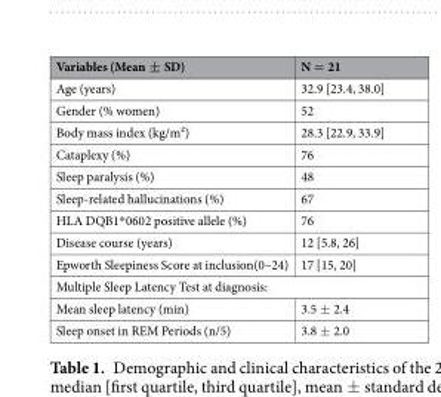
<table><thead><tr><td>Variables (Mean ± SD)</td><td>N = 21</td></tr></thead><tbody><tr><td>Age (years)</td><td>32.9 [23.4, 38.0]</td></tr><tr><td>Gender (% women)</td><td>52</td></tr><tr><td>Body mass index (kg/m²)</td><td>28.3 [22.9, 33.9]</td></tr><tr><td>Cataplexy (%)</td><td>76</td></tr><tr><td>Sleep paralysis (%)</td><td>48</td></tr><tr><td>Sleep-related hallucinations (%)</td><td>67</td></tr><tr><td>HLA DQB1*0602 positive allele (%)</td><td>76</td></tr><tr><td>Disease course (years)</td><td>12 [5.8, 26]</td></tr><tr><td>Epworth Sleepiness Score at inclusion(0–24)</td><td>17 [15, 20]</td></tr><tr><td colspan="2">Multiple Sleep Latency Test at diagnosis:</td></tr><tr><td>Mean sleep latency (min)</td><td>3.5 ± 2.4</td></tr><tr><td>Sleep onset in REM Periods (n/5)</td><td>3.8 ± 2.0</td></tr></tbody></table>